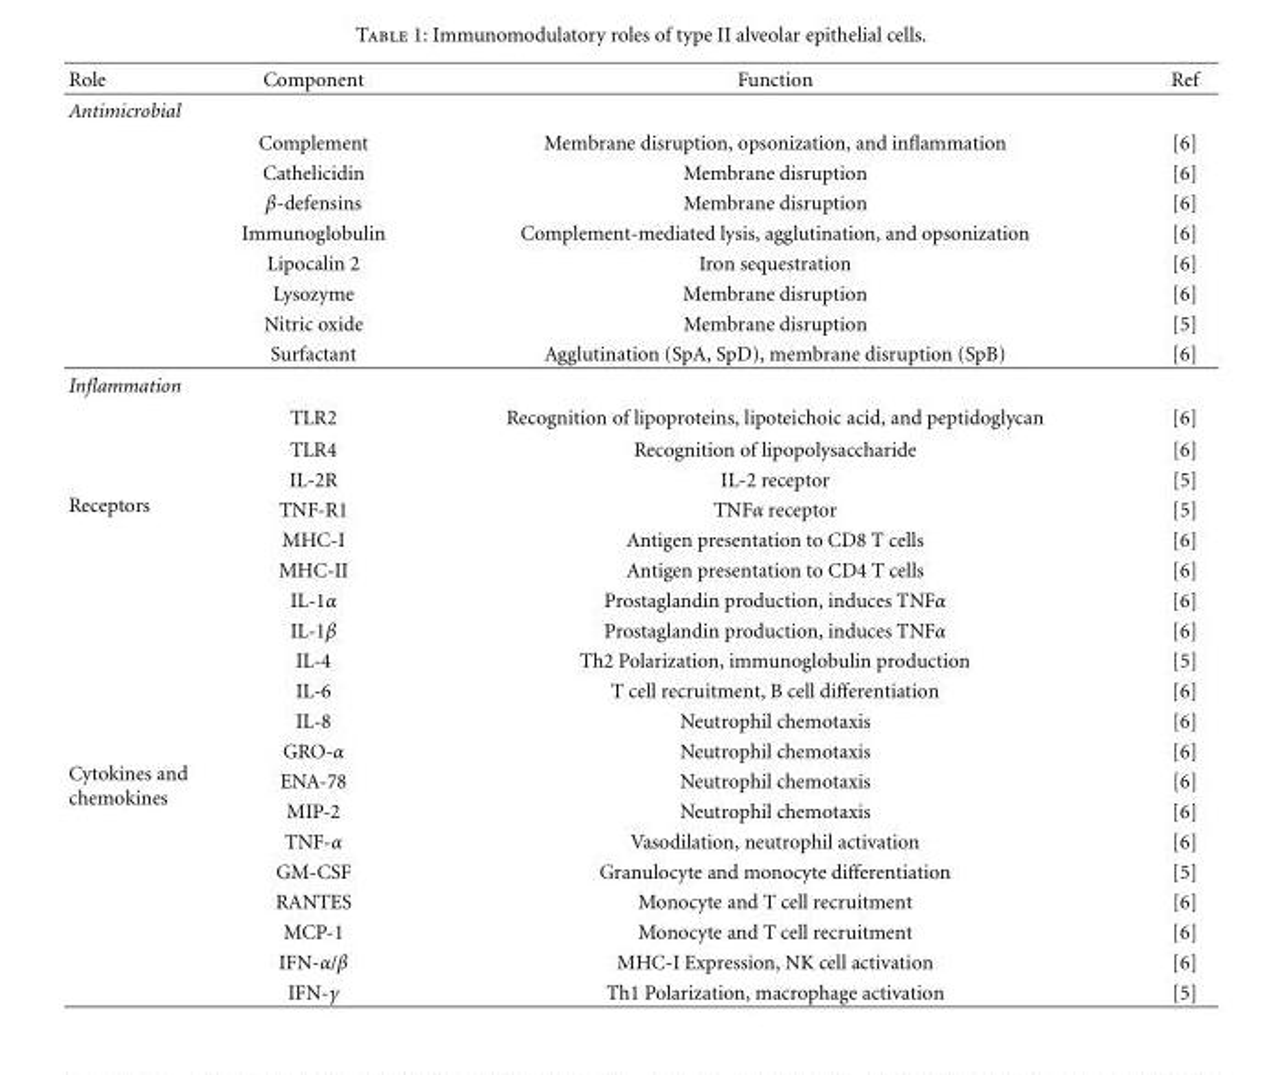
<table><thead><tr><td>Role</td><td>Component</td><td>Function</td><td>Ref</td></tr></thead><tbody><tr><td colspan="4">Antimicrobial</td></tr><tr><td rowspan="8"></td><td>Complement</td><td>Membrane disruption, opsonization, and inflammation</td><td>[6]</td></tr><tr><td>Cathelicidin</td><td>Membrane disruption</td><td>[6]</td></tr><tr><td>β-defensins</td><td>Membrane disruption</td><td>[6]</td></tr><tr><td>Immunoglobulin</td><td>Complement-mediated lysis, agglutination, and opsonization</td><td>[6]</td></tr><tr><td>Lipocalin 2</td><td>Iron sequestration</td><td>[6]</td></tr><tr><td>Lysozyme</td><td>Membrane disruption</td><td>[6]</td></tr><tr><td>Nitric oxide</td><td>Membrane disruption</td><td>[5]</td></tr><tr><td>Surfactant</td><td>Agglutination (SpA, SpD), membrane disruption (SpB)</td><td>[6]</td></tr><tr><td colspan="4">Inflammation</td></tr><tr><td></td><td>TLR2</td><td>Recognition of lipoproteins, lipoteichoic acid, and peptidoglycan</td><td>[6]</td></tr><tr><td rowspan="5">Receptors</td><td>TLR4</td><td>Recognition of lipopolysaccharide</td><td>[6]</td></tr><tr><td>IL-2R</td><td>IL-2 receptor</td><td>[5]</td></tr><tr><td>TNF-R1</td><td>TNFα receptor</td><td>[5]</td></tr><tr><td>MHC-I</td><td>Antigen presentation to CD8 T cells</td><td>[6]</td></tr><tr><td>MHC-II</td><td>Antigen presentation to CD4 T cells</td><td>[6]</td></tr><tr><td rowspan="14">Cytokines and chemokines</td><td>IL-1α</td><td>Prostaglandin production, induces TNFα</td><td>[6]</td></tr><tr><td>IL-1β</td><td>Prostaglandin production, induces TNFα</td><td>[6]</td></tr><tr><td>IL-4</td><td>Th2 Polarization, immunoglobulin production</td><td>[5]</td></tr><tr><td>IL-6</td><td>T cell recruitment, B cell differentiation</td><td>[6]</td></tr><tr><td>IL-8</td><td>Neutrophil chemotaxis</td><td>[6]</td></tr><tr><td>GRO-α</td><td>Neutrophil chemotaxis</td><td>[6]</td></tr><tr><td>ENA-78</td><td>Neutrophil chemotaxis</td><td>[6]</td></tr><tr><td>MIP-2</td><td>Neutrophil chemotaxis</td><td>[6]</td></tr><tr><td>TNF-α</td><td>Vasodilation, neutrophil activation</td><td>[6]</td></tr><tr><td>GM-CSF</td><td>Granulocyte and monocyte differentiation</td><td>[5]</td></tr><tr><td>RANTES</td><td>Monocyte and T cell recruitment</td><td>[6]</td></tr><tr><td>MCP-1</td><td>Monocyte and T cell recruitment</td><td>[6]</td></tr><tr><td>IFN-α/β</td><td>MHC-I Expression, NK cell activation</td><td>[6]</td></tr><tr><td>IFN-γ</td><td>Th1 Polarization, macrophage activation</td><td>[5]</td></tr></tbody></table>